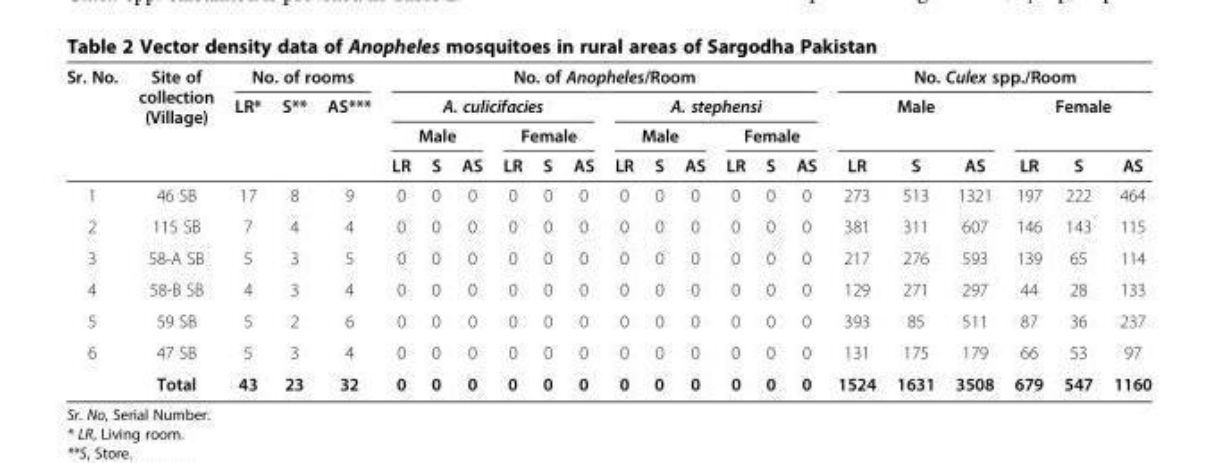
<table><thead><tr><td rowspan="4">Sr. No.</td><td rowspan="4">Site of collection (Village)</td><td colspan="3">No. of rooms</td><td colspan="12">No. of Anopheles/Room</td><td colspan="6">No. Culex spp./Room</td></tr><tr><td rowspan="3">LR*</td><td rowspan="3">S**</td><td rowspan="3">AS***</td><td colspan="6">A. culicifacies</td><td colspan="6">A. stephensi</td><td rowspan="2" colspan="3">Male</td><td rowspan="2" colspan="3">Female</td></tr><tr><td colspan="3">Male</td><td colspan="3">Female</td><td colspan="3">Male</td><td colspan="3">Female</td></tr><tr><td>LR</td><td>S</td><td>AS</td><td>LR</td><td>S</td><td>AS</td><td>LR</td><td>S</td><td>AS</td><td>LR</td><td>S</td><td>AS</td><td>LR</td><td>S</td><td>AS</td><td>LR</td><td>S</td><td>AS</td></tr></thead><tbody><tr><td>1</td><td>46 SB</td><td>17</td><td>8</td><td>9</td><td>0</td><td>0</td><td>0</td><td>0</td><td>0</td><td>0</td><td>0</td><td>0</td><td>0</td><td>0</td><td>0</td><td>0</td><td>273</td><td>513</td><td>1321</td><td>197</td><td>222</td><td>464</td></tr><tr><td>2</td><td>115 SB</td><td>7</td><td>4</td><td>4</td><td>0</td><td>0</td><td>0</td><td>0</td><td>0</td><td>0</td><td>0</td><td>0</td><td>0</td><td>0</td><td>0</td><td>0</td><td>381</td><td>311</td><td>607</td><td>146</td><td>143</td><td>115</td></tr><tr><td>3</td><td>58-A SB</td><td>5</td><td>3</td><td>5</td><td>0</td><td>0</td><td>0</td><td>0</td><td>0</td><td>0</td><td>0</td><td>0</td><td>0</td><td>0</td><td>0</td><td>0</td><td>217</td><td>276</td><td>593</td><td>139</td><td>65</td><td>114</td></tr><tr><td>4</td><td>58-B SB</td><td>4</td><td>3</td><td>4</td><td>0</td><td>0</td><td>0</td><td>0</td><td>0</td><td>0</td><td>0</td><td>0</td><td>0</td><td>0</td><td>0</td><td>0</td><td>129</td><td>271</td><td>297</td><td>44</td><td>28</td><td>133</td></tr><tr><td>5</td><td>59 SB</td><td>5</td><td>2</td><td>6</td><td>0</td><td>0</td><td>0</td><td>0</td><td>0</td><td>0</td><td>0</td><td>0</td><td>0</td><td>0</td><td>0</td><td>0</td><td>393</td><td>85</td><td>511</td><td>87</td><td>36</td><td>237</td></tr><tr><td rowspan="2">6</td><td>47 SB</td><td>5</td><td>3</td><td>4</td><td>0</td><td>0</td><td>0</td><td>0</td><td>0</td><td>0</td><td>0</td><td>0</td><td>0</td><td>0</td><td>0</td><td>0</td><td>131</td><td>175</td><td>179</td><td>66</td><td>53</td><td>97</td></tr><tr><td>Total</td><td>43</td><td>23</td><td>32</td><td>0</td><td>0</td><td>0</td><td>0</td><td>0</td><td>0</td><td>0</td><td>0</td><td>0</td><td>0</td><td>0</td><td>0</td><td>1524</td><td>1631</td><td>3508</td><td>679</td><td>547</td><td>1160</td></tr></tbody></table>